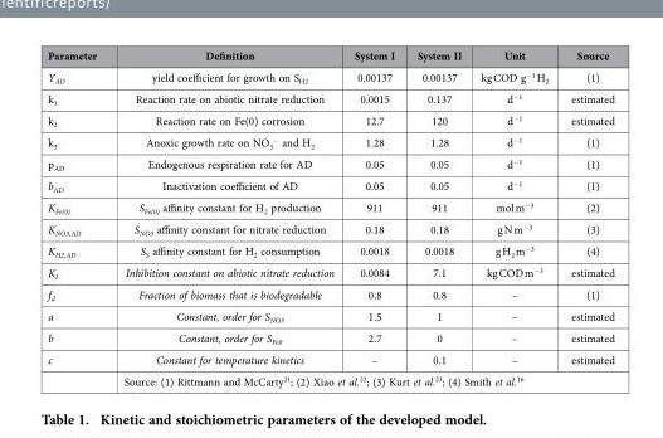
<table><thead><tr><td>Parameter</td><td>Definition</td><td>System I</td><td>System II</td><td>Unit</td><td>Source</td></tr></thead><tbody><tr><td>Y<sub>AD</sub></td><td>yield coefficient for growth on S<sub>H2</sub></td><td>0.00137</td><td>0.00137</td><td>kg COD g<sup>−1</sup> H<sub>2</sub></td><td>(1)</td></tr><tr><td>k<sub>1</sub></td><td>Reaction rate on abiotic nitrate reduction</td><td>0.0015</td><td>0.137</td><td>d<sup>−1</sup></td><td>estimated</td></tr><tr><td>k<sub>2</sub></td><td>Reaction rate on Fe(0) corrosion</td><td>12.7</td><td>120</td><td>d<sup>−1</sup></td><td>estimated</td></tr><tr><td>k<sub>3</sub></td><td>Anoxic growth rate on NO<sub>3</sub> <sup>−</sup> and H<sub>2</sub></td><td>1.28</td><td>1.28</td><td>d<sup>−1</sup></td><td>(1)</td></tr><tr><td>p<sub>AD</sub></td><td>Endogenous respiration rate for AD</td><td>0.05</td><td>0.05</td><td>d<sup>−1</sup></td><td>(1)</td></tr><tr><td>b<sub>AD</sub></td><td>Inactivation coefficient of AD</td><td>0.05</td><td>0.05</td><td>d<sup>−1</sup></td><td>(1)</td></tr><tr><td>K<sub>Fe(0)</sub></td><td>S<sub>Fe(0)</sub> affinity constant for H<sub>2</sub> production</td><td>911</td><td>911</td><td>mol m<sup>−3</sup></td><td>(2)</td></tr><tr><td>K<sub>NO3,AD</sub></td><td>S<sub>NO3</sub> affinity constant for nitrate reduction</td><td>0.18</td><td>0.18</td><td>g N m<sup>−3</sup></td><td>(3)</td></tr><tr><td>K<sub>H2,AD</sub></td><td>S<sub>S</sub> affinity constant for H<sub>2</sub> consumption</td><td>0.0018</td><td>0.0018</td><td>g H<sub>2</sub> m<sup>−3</sup></td><td>(4)</td></tr><tr><td>K<sub>I</sub></td><td>Inhibition constant on abiotic nitrate reduction</td><td>0.0084</td><td>7.1</td><td>kg COD m<sup>−3</sup></td><td>estimated</td></tr><tr><td>f<sub>d</sub></td><td>Fraction of biomass that is biodegradable</td><td>0.8</td><td>0.8</td><td>–</td><td>(1)</td></tr><tr><td>a</td><td>Constant, order for S<sub>NO3</sub></td><td>1.5</td><td>1</td><td>–</td><td>estimated</td></tr><tr><td>b</td><td>Constant, order for S<sub>Fe0</sub></td><td>2.7</td><td>0</td><td>–</td><td>estimated</td></tr><tr><td rowspan="2">c</td><td>Constant for temperature kinetics</td><td>–</td><td>0.1</td><td>–</td><td>estimated</td></tr><tr><td colspan="5">Source: (1) Rittmann and McCarty<sup>21</sup>; (2) Xiao et al.<sup>22</sup>; (3) Kurt et al.<sup>23</sup>; (4) Smith et al.<sup>16</sup></td></tr></tbody></table>